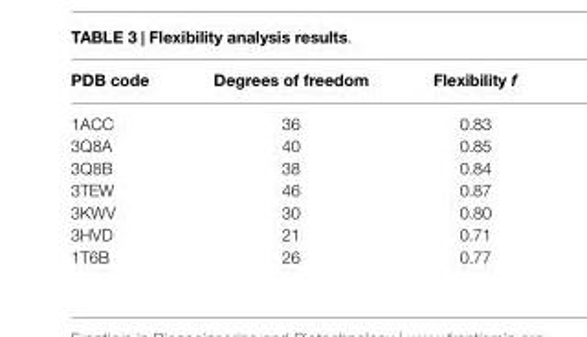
<table><thead><tr><td>PDB code</td><td>Degrees of freedom</td><td>Flexibility f</td></tr></thead><tbody><tr><td>1ACC</td><td>36</td><td>0.83</td></tr><tr><td>3Q8A</td><td>40</td><td>0.85</td></tr><tr><td>3Q8B</td><td>38</td><td>0.84</td></tr><tr><td>3TEW</td><td>46</td><td>0.87</td></tr><tr><td>3KWV</td><td>30</td><td>0.80</td></tr><tr><td>3HVD</td><td>21</td><td>0.71</td></tr><tr><td>1T6B</td><td>26</td><td>0.77</td></tr></tbody></table>